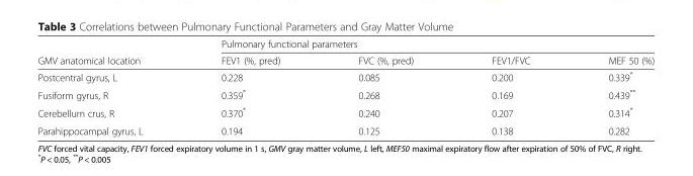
<table><thead><tr><td rowspan="2">GMV anatomical location</td><td colspan="4">Pulmonary functional parameters</td></tr><tr><td>FEV1 (%, pred)</td><td>FVC (%, pred)</td><td>FEV1/FVC</td><td>MEF 50 (%)</td></tr></thead><tbody><tr><td>Postcentral gyrus, L</td><td>0.228</td><td>0.085</td><td>0.200</td><td>0.339*</td></tr><tr><td>Fusiform gyrus, R</td><td>0.359*</td><td>0.268</td><td>0.169</td><td>0.439**</td></tr><tr><td>Cerebellum crus, R</td><td>0.370*</td><td>0.240</td><td>0.207</td><td>0.314*</td></tr><tr><td>Parahippocampal gyrus, L</td><td>0.194</td><td>0.125</td><td>0.138</td><td>0.282</td></tr></tbody></table>